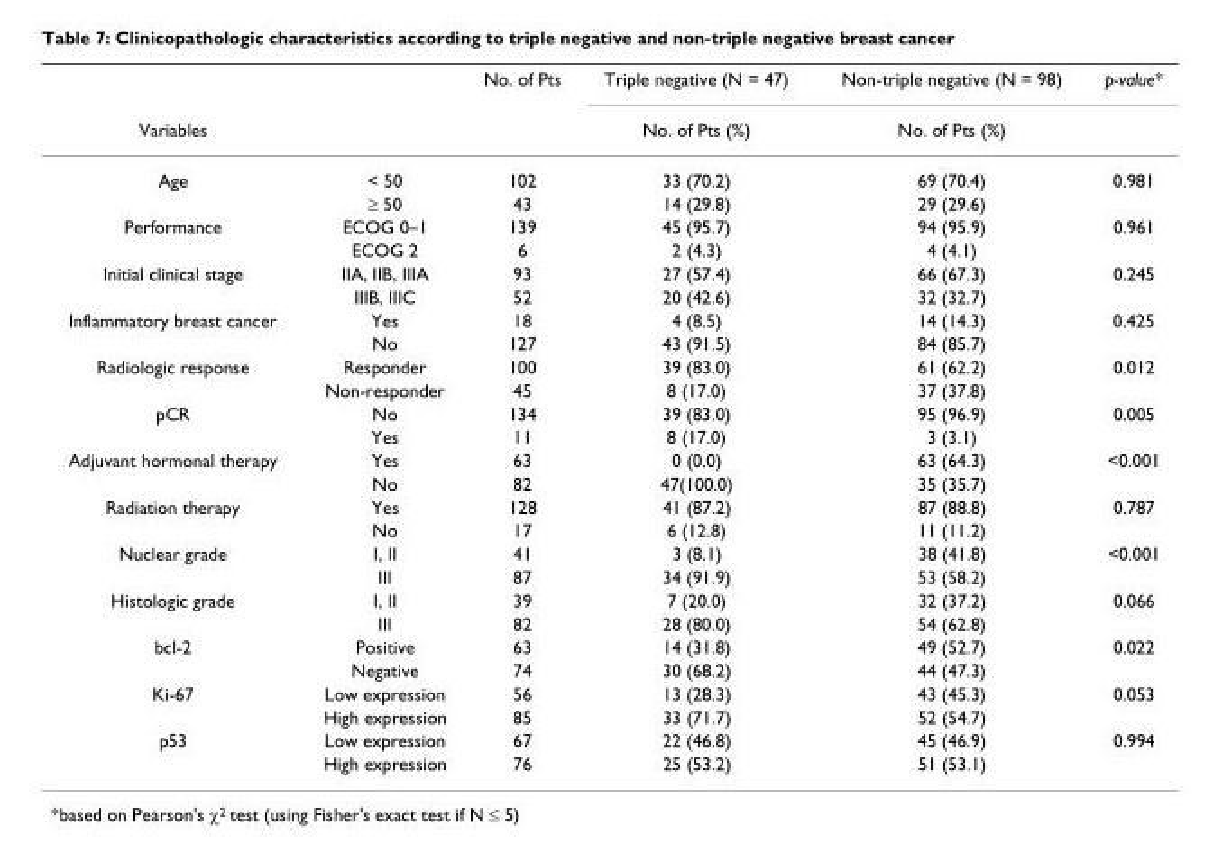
<table><thead><tr><td rowspan="2">Variables</td><td rowspan="2"></td><td rowspan="2">No. of Pts</td><td rowspan="2">Triple negative (N = 47) No. of Pts (%)</td><td rowspan="2">Non-triple negative (N = 98) No. of Pts (%)</td><td rowspan="2">p-value*</td></tr><tr></tr></thead><tbody><tr><td rowspan="2">Age</td><td>&lt; 50</td><td>102</td><td>33 (70.2)</td><td>69 (70.4)</td><td>0.981</td></tr><tr><td>≥ 50</td><td>43</td><td>14 (29.8)</td><td>29 (29.6)</td><td></td></tr><tr><td rowspan="2">Performance</td><td>ECOG 0–1</td><td>139</td><td>45 (95.7)</td><td>94 (95.9)</td><td>0.961</td></tr><tr><td>ECOG 2</td><td>6</td><td>2 (4.3)</td><td>4 (4.1)</td><td></td></tr><tr><td rowspan="2">Initial clinical stage</td><td>IIA, IIB, IIIA</td><td>93</td><td>27 (57.4)</td><td>66 (67.3)</td><td>0.245</td></tr><tr><td>IIIB, IIIC</td><td>52</td><td>20 (42.6)</td><td>32 (32.7)</td><td></td></tr><tr><td rowspan="2">Inflammatory breast cancer</td><td>Yes</td><td>18</td><td>4 (8.5)</td><td>14 (14.3)</td><td>0.425</td></tr><tr><td>No</td><td>127</td><td>43 (91.5)</td><td>84 (85.7)</td><td></td></tr><tr><td rowspan="2">Radiologic response</td><td>Responder</td><td>100</td><td>39 (83.0)</td><td>61 (62.2)</td><td>0.012</td></tr><tr><td>Non-responder</td><td>45</td><td>8 (17.0)</td><td>37 (37.8)</td><td></td></tr><tr><td rowspan="2">pCR</td><td>No</td><td>134</td><td>39 (83.0)</td><td>95 (96.9)</td><td>0.005</td></tr><tr><td>Yes</td><td>11</td><td>8 (17.0)</td><td>3 (3.1)</td><td></td></tr><tr><td rowspan="2">Adjuvant hormonal therapy</td><td>Yes</td><td>63</td><td>0 (0.0)</td><td>63 (64.3)</td><td>&lt;0.001</td></tr><tr><td>No</td><td>82</td><td>47(100.0)</td><td>35 (35.7)</td><td></td></tr><tr><td rowspan="2">Radiation therapy</td><td>Yes</td><td>128</td><td>41 (87.2)</td><td>87 (88.8)</td><td>0.787</td></tr><tr><td>No</td><td>17</td><td>6 (12.8)</td><td>11 (11.2)</td><td></td></tr><tr><td rowspan="2">Nuclear grade</td><td>I, II</td><td>41</td><td>3 (8.1)</td><td>38 (41.8)</td><td>&lt;0.001</td></tr><tr><td>III</td><td>87</td><td>34 (91.9)</td><td>53 (58.2)</td><td></td></tr><tr><td rowspan="2">Histologic grade</td><td>I, II</td><td>39</td><td>7 (20.0)</td><td>32 (37.2)</td><td>0.066</td></tr><tr><td>III</td><td>82</td><td>28 (80.0)</td><td>54 (62.8)</td><td></td></tr><tr><td rowspan="2">bcl-2</td><td>Positive</td><td>63</td><td>14 (31.8)</td><td>49 (52.7)</td><td>0.022</td></tr><tr><td>Negative</td><td>74</td><td>30 (68.2)</td><td>44 (47.3)</td><td></td></tr><tr><td rowspan="2">Ki-67</td><td>Low expression</td><td>56</td><td>13 (28.3)</td><td>43 (45.3)</td><td>0.053</td></tr><tr><td>High expression</td><td>85</td><td>33 (71.7)</td><td>52 (54.7)</td><td></td></tr><tr><td rowspan="2">p53</td><td>Low expression</td><td>67</td><td>22 (46.8)</td><td>45 (46.9)</td><td>0.994</td></tr><tr><td>High expression</td><td>76</td><td>25 (53.2)</td><td>51 (53.1)</td><td></td></tr></tbody></table>